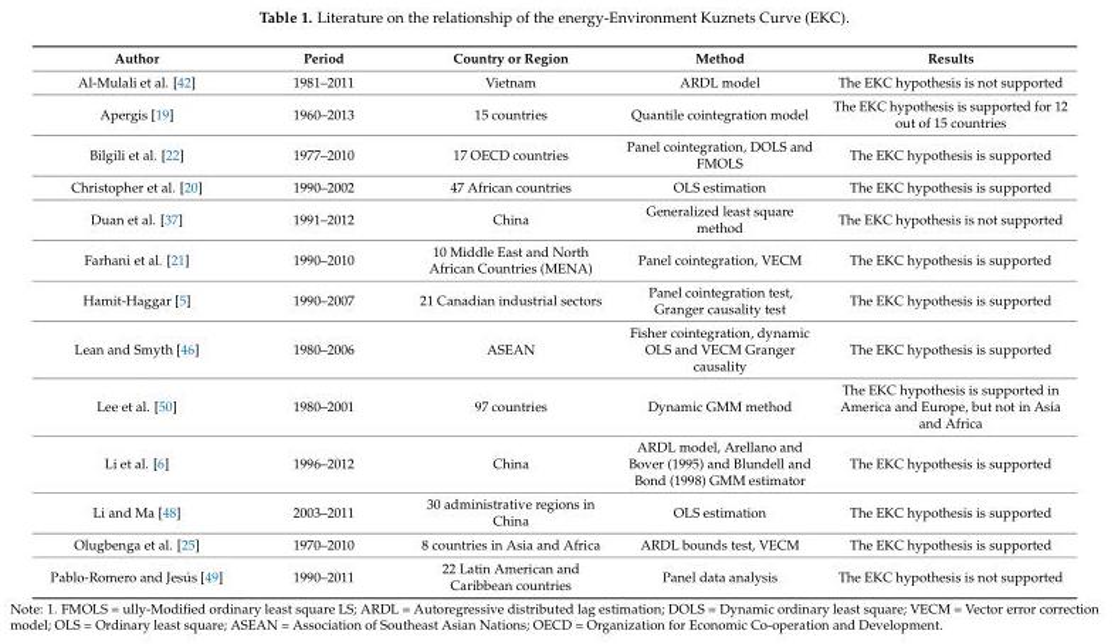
<table><thead><tr><td>Author</td><td>Period</td><td>Country or Region</td><td>Method</td><td>Results</td></tr></thead><tbody><tr><td>Al-Mulali et al. [42]</td><td>1981–2011</td><td>Vietnam</td><td>ARDL model</td><td>The EKC hypothesis is not supported</td></tr><tr><td>Apergis [19]</td><td>1960–2013</td><td>15 countries</td><td>Quantile cointegration model</td><td>The EKC hypothesis is supported for 12 out of 15 countries</td></tr><tr><td>Bilgili et al. [22]</td><td>1977–2010</td><td>17 OECD countries</td><td>Panel cointegration, DOLS and FMOLS</td><td>The EKC hypothesis is supported</td></tr><tr><td>Christopher et al. [20]</td><td>1990–2002</td><td>47 African countries</td><td>OLS estimation</td><td>The EKC hypothesis is supported</td></tr><tr><td>Duan et al. [37]</td><td>1991–2012</td><td>China</td><td>Generalized least square method</td><td>The EKC hypothesis is not supported</td></tr><tr><td>Farhani et al. [21]</td><td>1990–2010</td><td>10 Middle East and North African Countries (MENA)</td><td>Panel cointegration, VECM</td><td>The EKC hypothesis is supported</td></tr><tr><td>Hamit-Haggar [5]</td><td>1990–2007</td><td>21 Canadian industrial sectors</td><td>Panel cointegration test, Granger causality test</td><td>The EKC hypothesis is supported</td></tr><tr><td>Lean and Smyth [46]</td><td>1980–2006</td><td>ASEAN</td><td>Fisher cointegration, dynamic OLS and VECM Granger causality</td><td>The EKC hypothesis is supported</td></tr><tr><td>Lee et al. [50]</td><td>1980–2001</td><td>97 countries</td><td>Dynamic GMM method</td><td>The EKC hypothesis is supported in America and Europe, but not in Asia and Africa</td></tr><tr><td>Li et al. [6]</td><td>1996–2012</td><td>China</td><td>ARDL model, Arellano and Bover (1995) and Blundell and Bond (1998) GMM estimator</td><td>The EKC hypothesis is supported</td></tr><tr><td>Li and Ma [48]</td><td>2003–2011</td><td>30 administrative regions in China</td><td>OLS estimation</td><td>The EKC hypothesis is supported</td></tr><tr><td>Olugbenga et al. [25]</td><td>1970–2010</td><td>8 countries in Asia and Africa</td><td>ARDL bounds test, VECM</td><td>The EKC hypothesis is supported</td></tr><tr><td>Pablo-Romero and Jesús [49]</td><td>1990–2011</td><td>22 Latin American and Caribbean countries</td><td>Panel data analysis</td><td>The EKC hypothesis is not supported</td></tr></tbody></table>